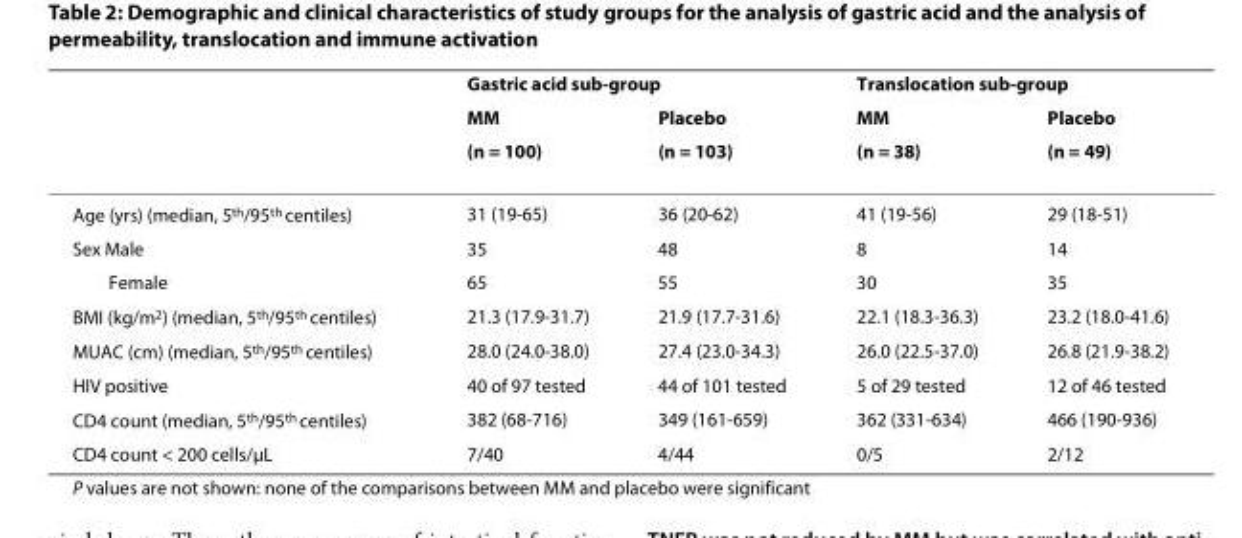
<table><thead><tr><td rowspan="3"></td><td colspan="2">Gastric acid sub-group</td><td colspan="2">Translocation sub-group</td></tr><tr><td rowspan="2">MM (n = 100)</td><td rowspan="2">Placebo (n = 103)</td><td rowspan="2">MM (n = 38)</td><td rowspan="2">Placebo (n = 49)</td></tr><tr></tr></thead><tbody><tr><td>Age (yrs) (median, 5<sup>th</sup>/95<sup>th</sup> centiles)</td><td>31 (19-65)</td><td>36 (20-62)</td><td>41 (19-56)</td><td>29 (18-51)</td></tr><tr><td>Sex Male</td><td>35</td><td>48</td><td>8</td><td>14</td></tr><tr><td>Female</td><td>65</td><td>55</td><td>30</td><td>35</td></tr><tr><td>BMI (kg/m<sup>2</sup>) (median, 5<sup>th</sup>/95<sup>th</sup> centiles)</td><td>21.3 (17.9-31.7)</td><td>21.9 (17.7-31.6)</td><td>22.1 (18.3-36.3)</td><td>23.2 (18.0-41.6)</td></tr><tr><td>MUAC (cm) (median, 5<sup>th</sup>/95<sup>th</sup> centiles)</td><td>28.0 (24.0-38.0)</td><td>27.4 (23.0-34.3)</td><td>26.0 (22.5-37.0)</td><td>26.8 (21.9-38.2)</td></tr><tr><td>HIV positive</td><td>40 of 97 tested</td><td>44 of 101 tested</td><td>5 of 29 tested</td><td>12 of 46 tested</td></tr><tr><td>CD4 count (median, 5<sup>th</sup>/95<sup>th</sup> centiles)</td><td>382 (68-716)</td><td>349 (161-659)</td><td>362 (331-634)</td><td>466 (190-936)</td></tr><tr><td>CD4 count &lt; 200 cells/μL</td><td>7/40</td><td>4/44</td><td>0/5</td><td>2/12</td></tr></tbody></table>